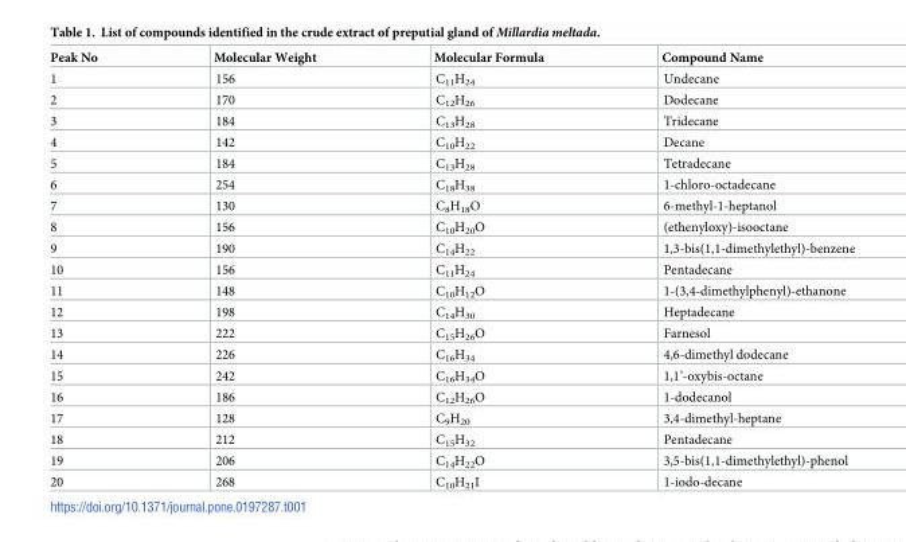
<table><thead><tr><td>Peak No</td><td>Molecular Weight</td><td>Molecular Formula</td><td>Compound Name</td></tr></thead><tbody><tr><td>1</td><td>156</td><td>C<sub>11</sub>H<sub>24</sub></td><td>Undecane</td></tr><tr><td>2</td><td>170</td><td>C<sub>12</sub>H<sub>26</sub></td><td>Dodecane</td></tr><tr><td>3</td><td>184</td><td>C<sub>13</sub>H<sub>28</sub></td><td>Tridecane</td></tr><tr><td>4</td><td>142</td><td>C<sub>10</sub>H<sub>22</sub></td><td>Decane</td></tr><tr><td>5</td><td>184</td><td>C<sub>13</sub>H<sub>28</sub></td><td>Tetradecane</td></tr><tr><td>6</td><td>254</td><td>C<sub>18</sub>H<sub>38</sub></td><td>1-chloro-octadecane</td></tr><tr><td>7</td><td>130</td><td>C<sub>8</sub>H<sub>18</sub>O</td><td>6-methyl-1-heptanol</td></tr><tr><td>8</td><td>156</td><td>C<sub>10</sub>H<sub>20</sub>O</td><td>(ethenyloxy)-isooctane</td></tr><tr><td>9</td><td>190</td><td>C<sub>14</sub>H<sub>22</sub></td><td>1,3-bis(1,1-dimethylethyl)-benzene</td></tr><tr><td>10</td><td>156</td><td>C<sub>11</sub>H<sub>24</sub></td><td>Pentadecane</td></tr><tr><td>11</td><td>148</td><td>C<sub>10</sub>H<sub>12</sub>O</td><td>1-(3,4-dimethylphenyl)-ethanone</td></tr><tr><td>12</td><td>198</td><td>C<sub>14</sub>H<sub>30</sub></td><td>Heptadecane</td></tr><tr><td>13</td><td>222</td><td>C<sub>15</sub>H<sub>26</sub>O</td><td>Farnesol</td></tr><tr><td>14</td><td>226</td><td>C<sub>16</sub>H<sub>34</sub></td><td>4,6-dimethyl dodecane</td></tr><tr><td>15</td><td>242</td><td>C<sub>16</sub>H<sub>34</sub>O</td><td>1,1’-oxybis-octane</td></tr><tr><td>16</td><td>186</td><td>C<sub>12</sub>H<sub>26</sub>O</td><td>1-dodecanol</td></tr><tr><td>17</td><td>128</td><td>C<sub>9</sub>H<sub>20</sub></td><td>3,4-dimethyl-heptane</td></tr><tr><td>18</td><td>212</td><td>C<sub>15</sub>H<sub>32</sub></td><td>Pentadecane</td></tr><tr><td>19</td><td>206</td><td>C<sub>14</sub>H<sub>22</sub>O</td><td>3,5-bis(1,1-dimethylethyl)-phenol</td></tr><tr><td>20</td><td>268</td><td>C<sub>10</sub>H<sub>21</sub>I</td><td>1-iodo-decane</td></tr></tbody></table>